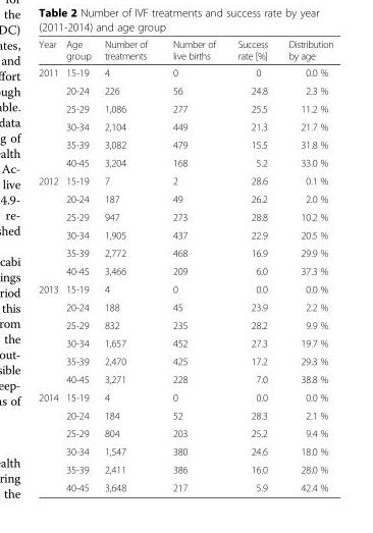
<table><thead><tr><td>Year</td><td>Age group</td><td>Number of treatments</td><td>Number of live births</td><td>Success rate [%]</td><td>Distribution by age</td></tr></thead><tbody><tr><td rowspan="6">2011</td><td>15-19</td><td>4</td><td>0</td><td>0</td><td>0.0 %</td></tr><tr><td>20-24</td><td>226</td><td>56</td><td>24.8</td><td>2.3 %</td></tr><tr><td>25-29</td><td>1,086</td><td>277</td><td>25.5</td><td>11.2 %</td></tr><tr><td>30-34</td><td>2,104</td><td>449</td><td>21.3</td><td>21.7 %</td></tr><tr><td>35-39</td><td>3,082</td><td>479</td><td>15.5</td><td>31.8 %</td></tr><tr><td>40-45</td><td>3,204</td><td>168</td><td>5.2</td><td>33.0 %</td></tr><tr><td rowspan="6">2012</td><td>15-19</td><td>7</td><td>2</td><td>28.6</td><td>0.1 %</td></tr><tr><td>20-24</td><td>187</td><td>49</td><td>26.2</td><td>2.0 %</td></tr><tr><td>25-29</td><td>947</td><td>273</td><td>28.8</td><td>10.2 %</td></tr><tr><td>30-34</td><td>1,905</td><td>437</td><td>22.9</td><td>20.5 %</td></tr><tr><td>35-39</td><td>2,772</td><td>468</td><td>16.9</td><td>29.9 %</td></tr><tr><td>40-45</td><td>3,466</td><td>209</td><td>6.0</td><td>37.3 %</td></tr><tr><td rowspan="6">2013</td><td>15-19</td><td>4</td><td>0</td><td>0.0</td><td>0.0 %</td></tr><tr><td>20-24</td><td>188</td><td>45</td><td>23.9</td><td>2.2 %</td></tr><tr><td>25-29</td><td>832</td><td>235</td><td>28.2</td><td>9.9 %</td></tr><tr><td>30-34</td><td>1,657</td><td>452</td><td>27.3</td><td>19.7 %</td></tr><tr><td>35-39</td><td>2,470</td><td>425</td><td>17.2</td><td>29.3 %</td></tr><tr><td>40-45</td><td>3,271</td><td>228</td><td>7.0</td><td>38.8 %</td></tr><tr><td rowspan="6">2014</td><td>15-19</td><td>4</td><td>0</td><td>0.0</td><td>0.0 %</td></tr><tr><td>20-24</td><td>184</td><td>52</td><td>28.3</td><td>2.1 %</td></tr><tr><td>25-29</td><td>804</td><td>203</td><td>25.2</td><td>9.4 %</td></tr><tr><td>30-34</td><td>1,547</td><td>380</td><td>24.6</td><td>18.0 %</td></tr><tr><td>35-39</td><td>2,411</td><td>386</td><td>16.0</td><td>28.0 %</td></tr><tr><td>40-45</td><td>3,648</td><td>217</td><td>5.9</td><td>42.4 %</td></tr></tbody></table>